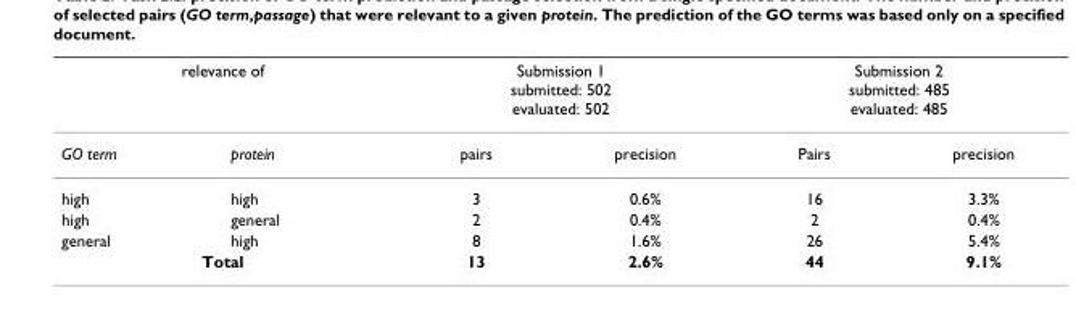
<table><thead><tr><td colspan="2">relevance of</td><td colspan="2">Submission 1 submitted: 502 evaluated: 502</td><td colspan="2">Submission 2 submitted: 485 evaluated: 485</td></tr><tr><td>GO term</td><td>protein</td><td>pairs</td><td>precision</td><td>Pairs</td><td>precision</td></tr></thead><tbody><tr><td>high</td><td>high</td><td>3</td><td>0.6%</td><td>16</td><td>3.3%</td></tr><tr><td>high</td><td>general</td><td>2</td><td>0.4%</td><td>2</td><td>0.4%</td></tr><tr><td>general</td><td>high</td><td>8</td><td>1.6%</td><td>26</td><td>5.4%</td></tr><tr><td colspan="2">Total</td><td>13</td><td>2.6%</td><td>44</td><td>9.1%</td></tr></tbody></table>